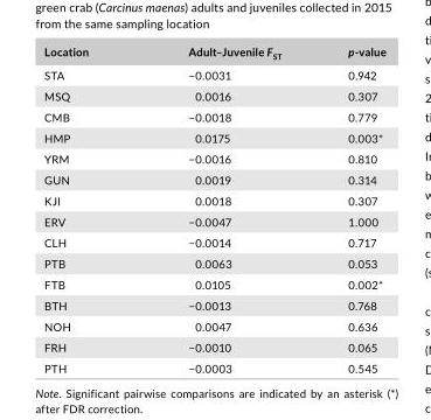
<table><thead><tr><td>Location</td><td>Adult–Juvenile F<sub>ST</sub></td><td>p- value</td></tr></thead><tbody><tr><td>STA</td><td>−0.0031</td><td>0.942</td></tr><tr><td>MSQ</td><td>0.0016</td><td>0.307</td></tr><tr><td>CMB</td><td>−0.0018</td><td>0.779</td></tr><tr><td>HMP</td><td>0.0175</td><td>0.003*</td></tr><tr><td>YRM</td><td>−0.0016</td><td>0.810</td></tr><tr><td>GUN</td><td>0.0019</td><td>0.314</td></tr><tr><td>KJI</td><td>0.0018</td><td>0.307</td></tr><tr><td>ERV</td><td>−0.0047</td><td>1.000</td></tr><tr><td>CLH</td><td>−0.0014</td><td>0.717</td></tr><tr><td>PTB</td><td>0.0063</td><td>0.053</td></tr><tr><td>FTB</td><td>0.0105</td><td>0.002*</td></tr><tr><td>BTH</td><td>−0.0013</td><td>0.768</td></tr><tr><td>NOH</td><td>0.0047</td><td>0.636</td></tr><tr><td>FRH</td><td>−0.0010</td><td>0.065</td></tr><tr><td>PTH</td><td>−0.0003</td><td>0.545</td></tr></tbody></table>